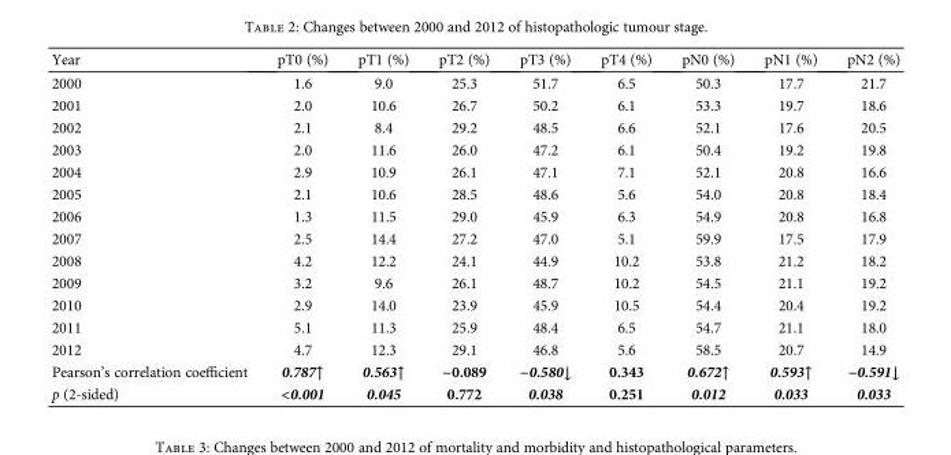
<table><thead><tr><td>Year</td><td>pT0 (%)</td><td>pT1 (%)</td><td>pT2 (%)</td><td>pT3 (%)</td><td>pT4 (%)</td><td>pN0 (%)</td><td>pN1 (%)</td><td>pN2 (%)</td></tr></thead><tbody><tr><td>2000</td><td>1.6</td><td>9.0</td><td>25.3</td><td>51.7</td><td>6.5</td><td>50.3</td><td>17.7</td><td>21.7</td></tr><tr><td>2001</td><td>2.0</td><td>10.6</td><td>26.7</td><td>50.2</td><td>6.1</td><td>53.3</td><td>19.7</td><td>18.6</td></tr><tr><td>2002</td><td>2.1</td><td>8.4</td><td>29.2</td><td>48.5</td><td>6.6</td><td>52.1</td><td>17.6</td><td>20.5</td></tr><tr><td>2003</td><td>2.0</td><td>11.6</td><td>26.0</td><td>47.2</td><td>6.1</td><td>50.4</td><td>19.2</td><td>19.8</td></tr><tr><td>2004</td><td>2.9</td><td>10.9</td><td>26.1</td><td>47.1</td><td>7.1</td><td>52.1</td><td>20.8</td><td>16.6</td></tr><tr><td>2005</td><td>2.1</td><td>10.6</td><td>28.5</td><td>48.6</td><td>5.6</td><td>54.0</td><td>20.8</td><td>18.4</td></tr><tr><td>2006</td><td>1.3</td><td>11.5</td><td>29.0</td><td>45.9</td><td>6.3</td><td>54.9</td><td>20.8</td><td>16.8</td></tr><tr><td>2007</td><td>2.5</td><td>14.4</td><td>27.2</td><td>47.0</td><td>5.1</td><td>59.9</td><td>17.5</td><td>17.9</td></tr><tr><td>2008</td><td>4.2</td><td>12.2</td><td>24.1</td><td>44.9</td><td>10.2</td><td>53.8</td><td>21.2</td><td>18.2</td></tr><tr><td>2009</td><td>3.2</td><td>9.6</td><td>26.1</td><td>48.7</td><td>10.2</td><td>54.5</td><td>21.1</td><td>19.2</td></tr><tr><td>2010</td><td>2.9</td><td>14.0</td><td>23.9</td><td>45.9</td><td>10.5</td><td>54.4</td><td>20.4</td><td>19.2</td></tr><tr><td>2011</td><td>5.1</td><td>11.3</td><td>25.9</td><td>48.4</td><td>6.5</td><td>54.7</td><td>21.1</td><td>18.0</td></tr><tr><td>2012</td><td>4.7</td><td>12.3</td><td>29.1</td><td>46.8</td><td>5.6</td><td>58.5</td><td>20.7</td><td>14.9</td></tr><tr><td>Pearson’s correlation coefficient</td><td>0.787↑</td><td>0.563↑</td><td>−0.089</td><td>−0.580↓</td><td>0.343</td><td>0.672↑</td><td>0.593↑</td><td>−0.591↓</td></tr><tr><td>p (2-sided)</td><td>&lt;0.001</td><td>0.045</td><td>0.772</td><td>0.038</td><td>0.251</td><td>0.012</td><td>0.033</td><td>0.033</td></tr></tbody></table>